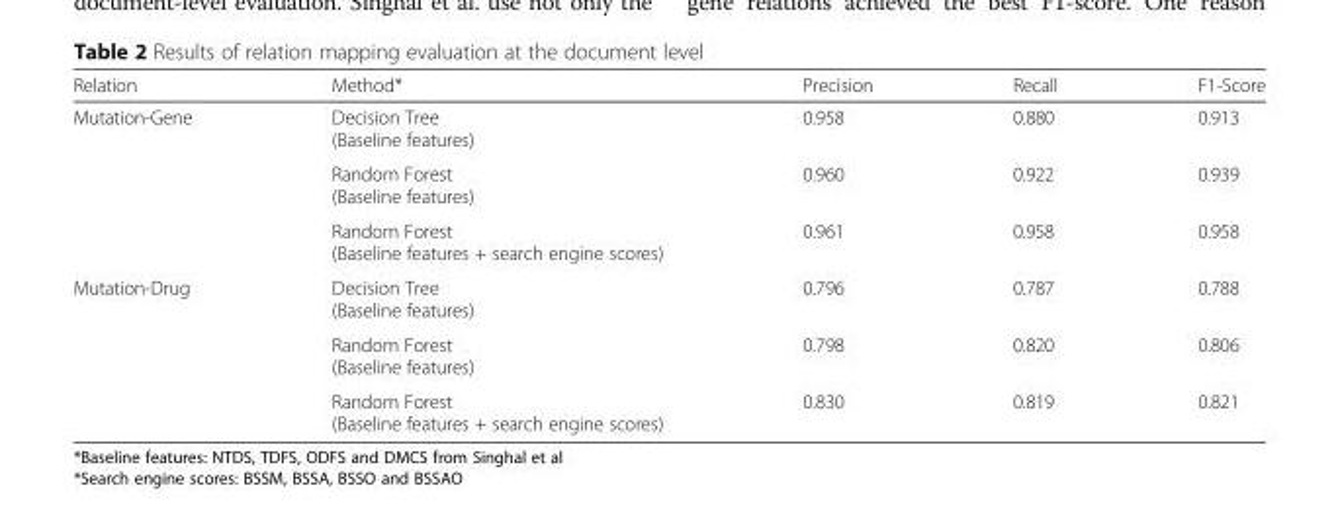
<table><thead><tr><td>Relation</td><td>Method*</td><td>Precision</td><td>Recall</td><td>F1-Score</td></tr></thead><tbody><tr><td rowspan="3">Mutation-Gene</td><td>Decision Tree (Baseline features)</td><td>0.958</td><td>0.880</td><td>0.913</td></tr><tr><td>Random Forest (Baseline features)</td><td>0.960</td><td>0.922</td><td>0.939</td></tr><tr><td>Random Forest (Baseline features + search engine scores)</td><td>0.961</td><td>0.958</td><td>0.958</td></tr><tr><td rowspan="3">Mutation-Drug</td><td>Decision Tree (Baseline features)</td><td>0.796</td><td>0.787</td><td>0.788</td></tr><tr><td>Random Forest (Baseline features)</td><td>0.798</td><td>0.820</td><td>0.806</td></tr><tr><td>Random Forest (Baseline features + search engine scores)</td><td>0.830</td><td>0.819</td><td>0.821</td></tr></tbody></table>